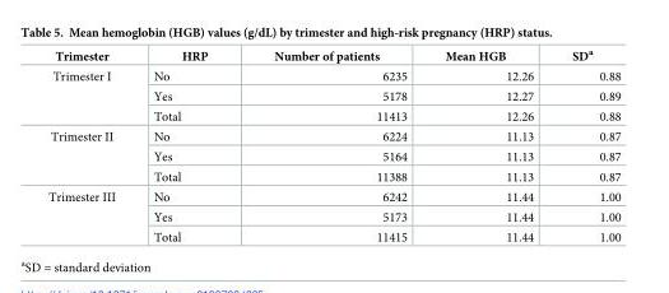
<table><thead><tr><td>Trimester</td><td>HRP</td><td>Number of patients</td><td>Mean HGB</td><td>SD<sup>a</sup></td></tr></thead><tbody><tr><td rowspan="3">Trimester I</td><td>No</td><td>6235</td><td>12.26</td><td>0.88</td></tr><tr><td>Yes</td><td>5178</td><td>12.27</td><td>0.89</td></tr><tr><td>Total</td><td>11413</td><td>12.26</td><td>0.88</td></tr><tr><td rowspan="3">Trimester II</td><td>No</td><td>6224</td><td>11.13</td><td>0.87</td></tr><tr><td>Yes</td><td>5164</td><td>11.13</td><td>0.87</td></tr><tr><td>Total</td><td>11388</td><td>11.13</td><td>0.87</td></tr><tr><td rowspan="3">Trimester III</td><td>No</td><td>6242</td><td>11.44</td><td>1.00</td></tr><tr><td>Yes</td><td>5173</td><td>11.44</td><td>1.00</td></tr><tr><td>Total</td><td>11415</td><td>11.44</td><td>1.00</td></tr></tbody></table>